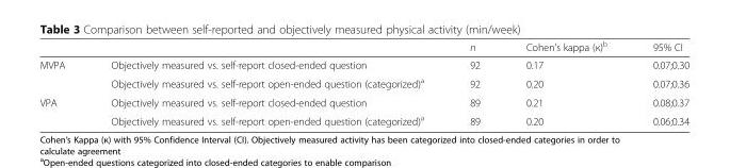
<table><thead><tr><td></td><td></td><td>n</td><td>Cohen’s kappa (к)<sup>b</sup></td><td>95% CI</td></tr></thead><tbody><tr><td rowspan="2">MVPA</td><td>Objectively measured vs. self-report closed-ended question</td><td>92</td><td>0.17</td><td>0.07;0.30</td></tr><tr><td>Objectively measured vs. self-report open-ended question (categorized)<sup>a</sup></td><td>92</td><td>0.20</td><td>0.07;0.36</td></tr><tr><td rowspan="2">VPA</td><td>Objectively measured vs. self-report closed-ended question</td><td>89</td><td>0.21</td><td>0.08;0.37</td></tr><tr><td>Objectively measured vs. self-report open-ended question (categorized)<sup>a</sup></td><td>89</td><td>0.20</td><td>0.06;0.34</td></tr></tbody></table>